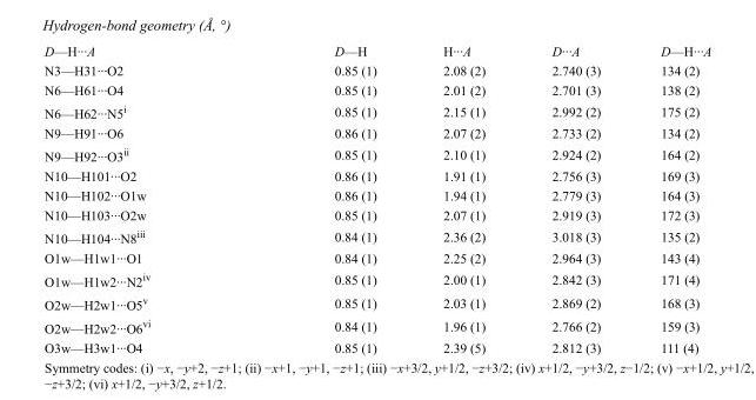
<table><tbody><tr><td>D—H···A</td><td>D—H</td><td>H···A</td><td>D···A</td><td>D—H···A</td></tr><tr><td>N3—H31···O2</td><td>0.85 (1)</td><td>2.08 (2)</td><td>2.740 (3)</td><td>134 (2)</td></tr><tr><td>N6—H61···O4</td><td>0.85 (1)</td><td>2.01 (2)</td><td>2.701 (3)</td><td>138 (2)</td></tr><tr><td>N6—H62···N5<sup>i</sup></td><td>0.85 (1)</td><td>2.15 (1)</td><td>2.992 (2)</td><td>175 (2)</td></tr><tr><td>N9—H91···O6</td><td>0.86 (1)</td><td>2.07 (2)</td><td>2.733 (2)</td><td>134 (2)</td></tr><tr><td>N9—H92···O3<sup>ii</sup></td><td>0.85 (1)</td><td>2.10 (1)</td><td>2.924 (2)</td><td>164 (2)</td></tr><tr><td>N10—H101···O2</td><td>0.86 (1)</td><td>1.91 (1)</td><td>2.756 (3)</td><td>169 (3)</td></tr><tr><td>N10—H102···O1w</td><td>0.86 (1)</td><td>1.94 (1)</td><td>2.779 (3)</td><td>164 (3)</td></tr><tr><td>N10—H103···O2w</td><td>0.85 (1)</td><td>2.07 (1)</td><td>2.919 (3)</td><td>172 (3)</td></tr><tr><td>N10—H104···N8<sup>iii</sup></td><td>0.84 (1)</td><td>2.36 (2)</td><td>3.018 (3)</td><td>135 (2)</td></tr><tr><td>O1w—H1w1···O1</td><td>0.84 (1)</td><td>2.25 (2)</td><td>2.964 (3)</td><td>143 (4)</td></tr><tr><td>O1w—H1w2···N2<sup>iv</sup></td><td>0.85 (1)</td><td>2.00 (1)</td><td>2.842 (3)</td><td>171 (4)</td></tr><tr><td>O2w—H2w1···O5<sup>v</sup></td><td>0.85 (1)</td><td>2.03 (1)</td><td>2.869 (2)</td><td>168 (3)</td></tr><tr><td>O2w—H2w2···O6<sup>vi</sup></td><td>0.84 (1)</td><td>1.96 (1)</td><td>2.766 (2)</td><td>159 (3)</td></tr><tr><td>O3w—H3w1···O4</td><td>0.85 (1)</td><td>2.39 (5)</td><td>2.812 (3)</td><td>111 (4)</td></tr></tbody></table>